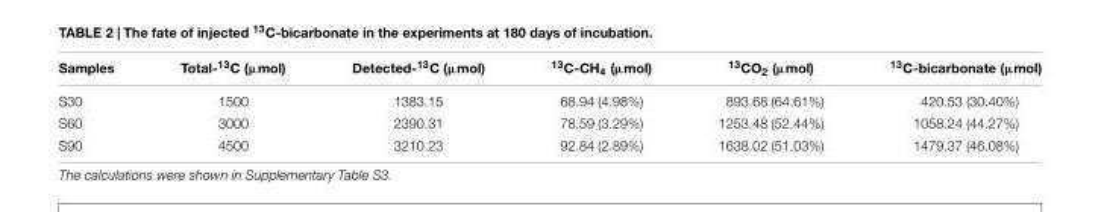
<table><thead><tr><td>Samples</td><td>Total-<sup>13</sup>C (µmol)</td><td>Detected-<sup>13</sup>C (µmol)</td><td><sup>13</sup>C-CH<sub>4</sub> (µmol)</td><td><sup>13</sup>CO<sub>2</sub> (µmol)</td><td><sup>13</sup>C-bicarbonate (µmol)</td></tr></thead><tbody><tr><td>S30</td><td>1500</td><td>1383.15</td><td>68.94 (4.98%)</td><td>893.68 (64.61%)</td><td>420.53 (30.40%)</td></tr><tr><td>S60</td><td>3000</td><td>2390.31</td><td>78.59 (3.29%)</td><td>1253.48 (52.44%)</td><td>1058.24 (44.27%)</td></tr><tr><td>S90</td><td>4500</td><td>3210.23</td><td>92.84 (2.89%)</td><td>1638.02 (51.03%)</td><td>1479.37 (46.08%)</td></tr></tbody></table>